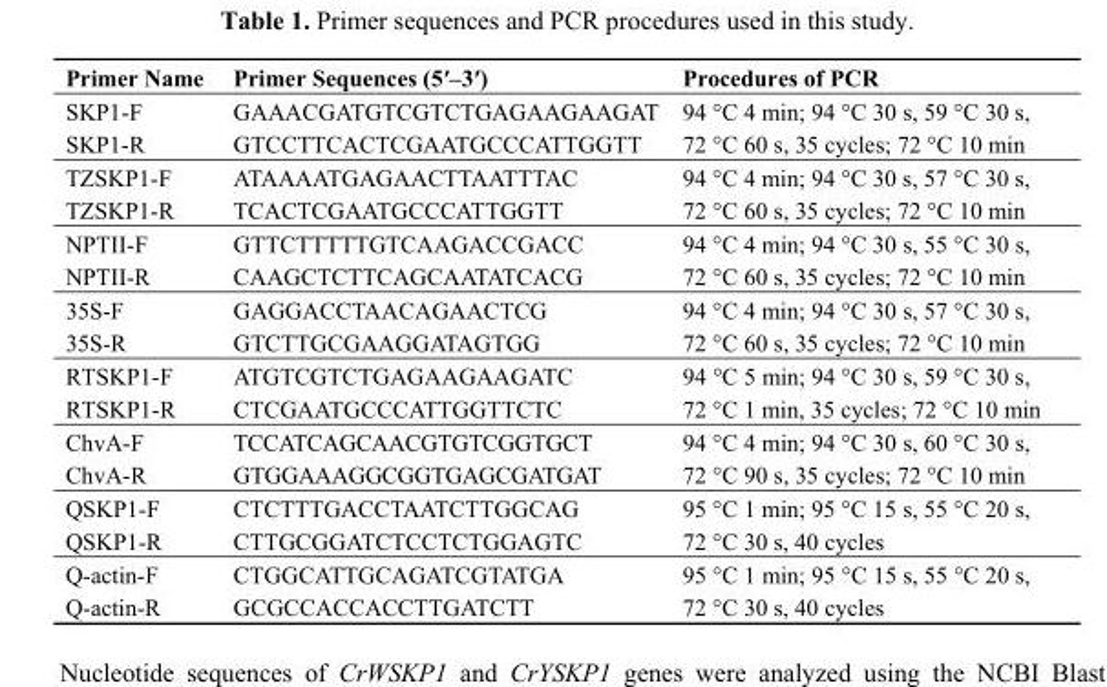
<table><thead><tr><td>Primer Name</td><td>Primer Sequences (5′–3′)</td><td>Procedures of PCR</td></tr></thead><tbody><tr><td>SKP1-F</td><td>GAAACGATGTCGTCTGAGAAGAAGAT</td><td rowspan="2">94 °C 4 min; 94 °C 30 s, 59 °C 30 s, 72 °C 60 s, 35 cycles; 72 °C 10 min</td></tr><tr><td>SKP1-R</td><td>GTCCTTCACTCGAATGCCCATTGGTT</td></tr><tr><td>TZSKP1-F</td><td>ATAAAATGAGAACTTAATTTAC</td><td rowspan="2">94 °C 4 min; 94 °C 30 s, 57 °C 30 s, 72 °C 60 s, 35 cycles; 72 °C 10 min</td></tr><tr><td>TZSKP1-R</td><td>TCACTCGAATGCCCATTGGTT</td></tr><tr><td>NPTII-F</td><td>GTTCTTTTTGTCAAGACCGACC</td><td rowspan="2">94 °C 4 min; 94 °C 30 s, 55 °C 30 s, 72 °C 60 s, 35 cycles; 72 °C 10 min</td></tr><tr><td>NPTII-R</td><td>CAAGCTCTTCAGCAATATCACG</td></tr><tr><td>35S-F</td><td>GAGGACCTAACAGAACTCG</td><td rowspan="2">94 °C 4 min; 94 °C 30 s, 57 °C 30 s, 72 °C 60 s, 35 cycles; 72 °C 10 min</td></tr><tr><td>35S-R</td><td>GTCTTGCGAAGGATAGTGG</td></tr><tr><td>RTSKP1-F</td><td>ATGTCGTCTGAGAAGAAGATC</td><td rowspan="2">94 °C 5 min; 94 °C 30 s, 59 °C 30 s, 72 °C 1 min, 35 cycles; 72 °C 10 min</td></tr><tr><td>RTSKP1-R</td><td>CTCGAATGCCCATTGGTTCTC</td></tr><tr><td>ChvA-F</td><td>TCCATCAGCAACGTGTCGGTGCT</td><td rowspan="2">94 °C 4 min; 94 °C 30 s, 60 °C 30 s, 72 °C 90 s, 35 cycles; 72 °C 10 min</td></tr><tr><td>ChvA-R</td><td>GTGGAAAGGCGGTGAGCGATGAT</td></tr><tr><td>QSKP1-F</td><td>CTCTTTGACCTAATCTTGGCAG</td><td rowspan="2">95 °C 1 min; 95 °C 15 s, 55 °C 20 s, 72 °C 30 s, 40 cycles</td></tr><tr><td>QSKP1-R</td><td>CTTGCGGATCTCCTCTGGAGTC</td></tr><tr><td>Q-actin-F</td><td>CTGGCATTGCAGATCGTATGA</td><td rowspan="2">95 °C 1 min; 95 °C 15 s, 55 °C 20 s, 72 °C 30 s, 40 cycles</td></tr><tr><td>Q-actin-R</td><td>GCGCCACCACCTTGATCTT</td></tr></tbody></table>